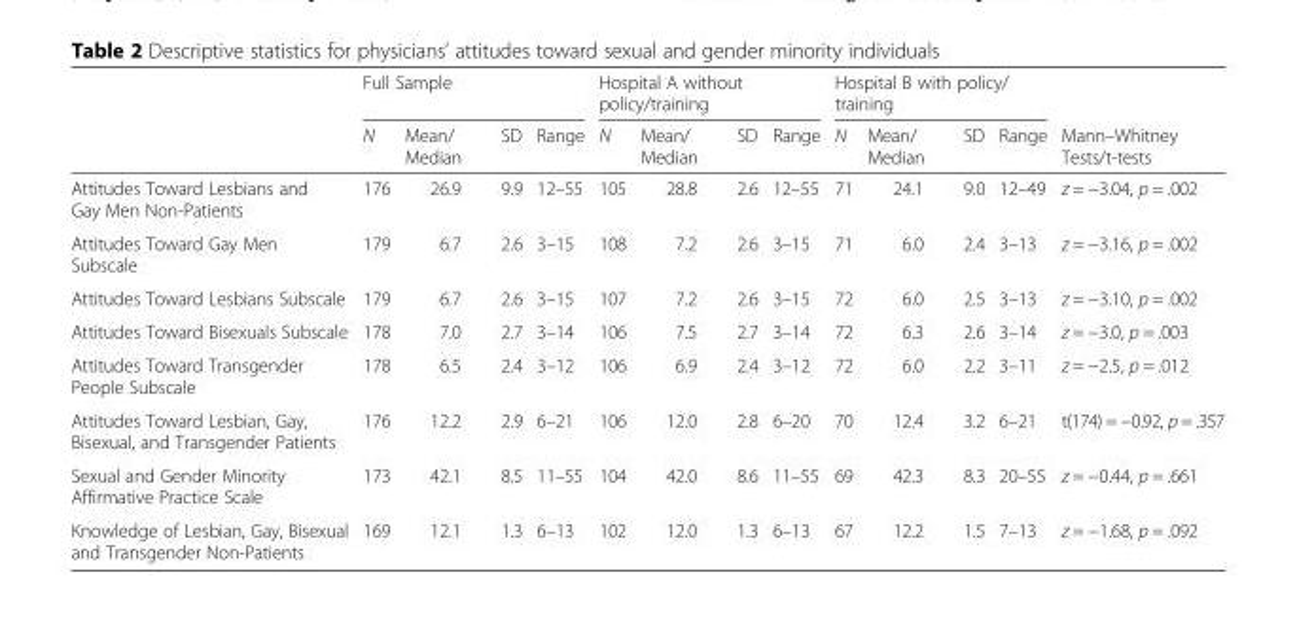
<table><thead><tr><td rowspan="2"></td><td colspan="4">Full Sample</td><td colspan="4">Hospital A without policy/training</td><td colspan="4">Hospital B with policy/ training</td><td rowspan="2">Mann–Whitney Tests/t-tests</td></tr><tr><td>N</td><td>Mean/ Median</td><td>SD</td><td>Range</td><td>N</td><td>Mean/ Median</td><td>SD</td><td>Range</td><td>N</td><td>Mean/ Median</td><td>SD</td><td>Range</td></tr></thead><tbody><tr><td>Attitudes Toward Lesbians and Gay Men Non-Patients</td><td>176</td><td>26.9</td><td>9.9</td><td>12–55</td><td>105</td><td>28.8</td><td>2.6</td><td>12–55</td><td>71</td><td>24.1</td><td>9.0</td><td>12–49</td><td>z = −3.04, p = .002</td></tr><tr><td>Attitudes Toward Gay Men Subscale</td><td>179</td><td>6.7</td><td>2.6</td><td>3–15</td><td>108</td><td>7.2</td><td>2.6</td><td>3–15</td><td>71</td><td>6.0</td><td>2.4</td><td>3–13</td><td>z = −3.16, p = .002</td></tr><tr><td>Attitudes Toward Lesbians Subscale</td><td>179</td><td>6.7</td><td>2.6</td><td>3–15</td><td>107</td><td>7.2</td><td>2.6</td><td>3–15</td><td>72</td><td>6.0</td><td>2.5</td><td>3–13</td><td>z = −3.10, p = .002</td></tr><tr><td>Attitudes Toward Bisexuals Subscale</td><td>178</td><td>7.0</td><td>2.7</td><td>3–14</td><td>106</td><td>7.5</td><td>2.7</td><td>3–14</td><td>72</td><td>6.3</td><td>2.6</td><td>3–14</td><td>z = −3.0, p = .003</td></tr><tr><td>Attitudes Toward Transgender People Subscale</td><td>178</td><td>6.5</td><td>2.4</td><td>3–12</td><td>106</td><td>6.9</td><td>2.4</td><td>3–12</td><td>72</td><td>6.0</td><td>2.2</td><td>3–11</td><td>z = −2.5, p = .012</td></tr><tr><td>Attitudes Toward Lesbian, Gay, Bisexual, and Transgender Patients</td><td>176</td><td>12.2</td><td>2.9</td><td>6–21</td><td>106</td><td>12.0</td><td>2.8</td><td>6–20</td><td>70</td><td>12.4</td><td>3.2</td><td>6–21</td><td>t(174) = −0.92, p = .357</td></tr><tr><td>Sexual and Gender Minority Affirmative Practice Scale</td><td>173</td><td>42.1</td><td>8.5</td><td>11–55</td><td>104</td><td>42.0</td><td>8.6</td><td>11–55</td><td>69</td><td>42.3</td><td>8.3</td><td>20–55</td><td>z = −0.44, p = .661</td></tr><tr><td>Knowledge of Lesbian, Gay, Bisexual and Transgender Non-Patients</td><td>169</td><td>12.1</td><td>1.3</td><td>6–13</td><td>102</td><td>12.0</td><td>1.3</td><td>6–13</td><td>67</td><td>12.2</td><td>1.5</td><td>7–13</td><td>z = −1.68, p = .092</td></tr></tbody></table>